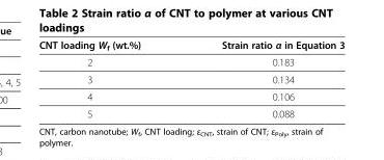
<table><thead><tr><td>CNT loading W<sub>f</sub> (wt.%)</td><td>Strain ratio α in Equation 3</td></tr></thead><tbody><tr><td>2</td><td>0.183</td></tr><tr><td>3</td><td>0.134</td></tr><tr><td>4</td><td>0.106</td></tr><tr><td>5</td><td>0.088</td></tr></tbody></table>